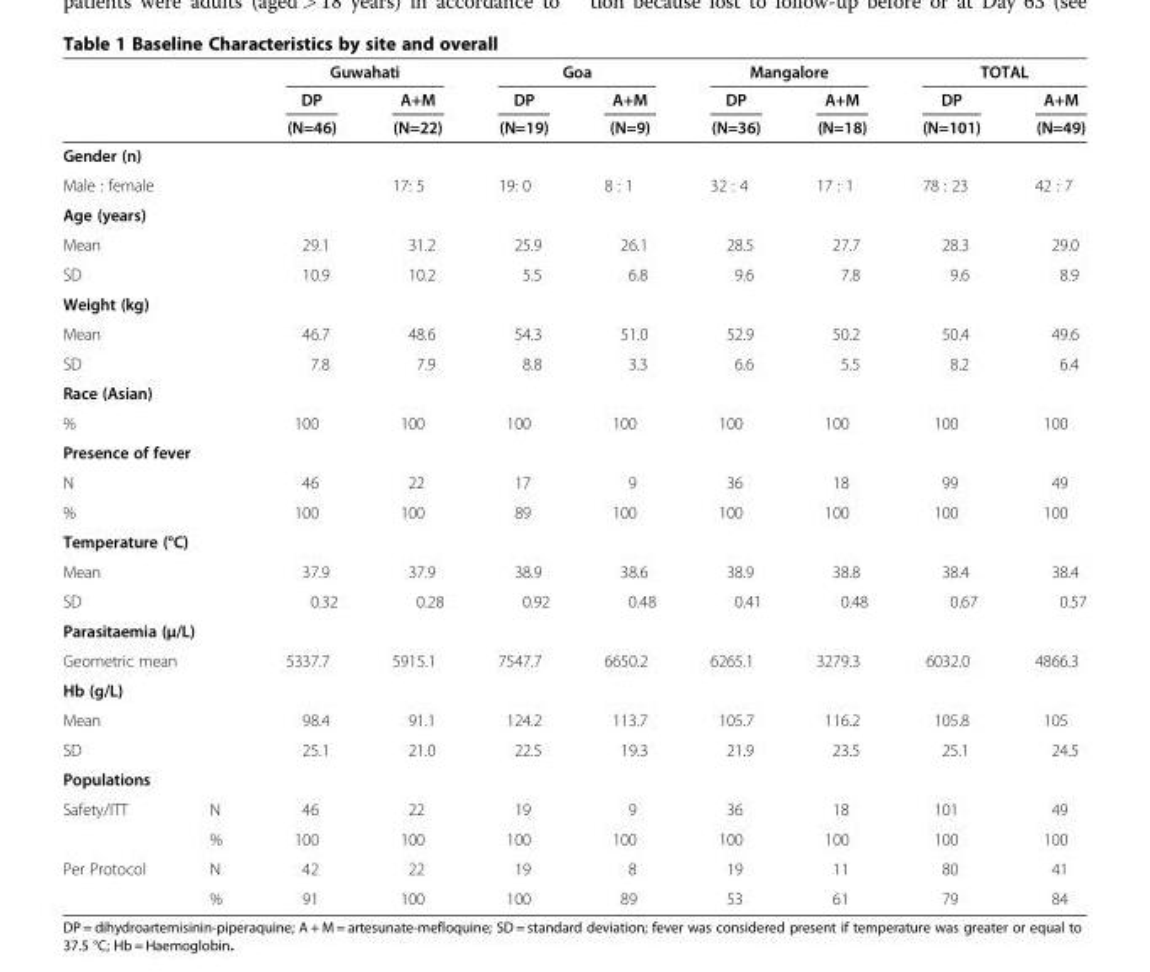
<table><thead><tr><td rowspan="3"></td><td rowspan="3"></td><td colspan="2">Guwahati</td><td colspan="2">Goa</td><td colspan="2">Mangalore</td><td colspan="2">TOTAL</td></tr><tr><td rowspan="2">DP (N=46)</td><td rowspan="2">A+M (N=22)</td><td rowspan="2">DP (N=19)</td><td rowspan="2">A+M (N=9)</td><td rowspan="2">DP (N=36)</td><td rowspan="2">A+M (N=18)</td><td rowspan="2">DP (N=101)</td><td rowspan="2">A+M (N=49)</td></tr><tr></tr></thead><tbody><tr><td colspan="10">Gender (n)</td></tr><tr><td colspan="2">Male : female</td><td></td><td>17: 5</td><td>19: 0</td><td>8 : 1</td><td>32 : 4</td><td>17 : 1</td><td>78 : 23</td><td>42 : 7</td></tr><tr><td colspan="10">Age (years)</td></tr><tr><td colspan="2">Mean</td><td>29.1</td><td>31.2</td><td>25.9</td><td>26.1</td><td>28.5</td><td>27.7</td><td>28.3</td><td>29.0</td></tr><tr><td colspan="2">SD</td><td>10.9</td><td>10.2</td><td>5.5</td><td>6.8</td><td>9.6</td><td>7.8</td><td>9.6</td><td>8.9</td></tr><tr><td colspan="10">Weight (kg)</td></tr><tr><td colspan="2">Mean</td><td>46.7</td><td>48.6</td><td>54.3</td><td>51.0</td><td>52.9</td><td>50.2</td><td>50.4</td><td>49.6</td></tr><tr><td colspan="2">SD</td><td>7.8</td><td>7.9</td><td>8.8</td><td>3.3</td><td>6.6</td><td>5.5</td><td>8.2</td><td>6.4</td></tr><tr><td colspan="10">Race (Asian)</td></tr><tr><td colspan="2">%</td><td>100</td><td>100</td><td>100</td><td>100</td><td>100</td><td>100</td><td>100</td><td>100</td></tr><tr><td colspan="10">Presence of fever</td></tr><tr><td colspan="2">N</td><td>46</td><td>22</td><td>17</td><td>9</td><td>36</td><td>18</td><td>99</td><td>49</td></tr><tr><td colspan="2">%</td><td>100</td><td>100</td><td>89</td><td>100</td><td>100</td><td>100</td><td>100</td><td>100</td></tr><tr><td colspan="10">Temperature (°C)</td></tr><tr><td colspan="2">Mean</td><td>37.9</td><td>37.9</td><td>38.9</td><td>38.6</td><td>38.9</td><td>38.8</td><td>38.4</td><td>38.4</td></tr><tr><td colspan="2">SD</td><td>0.32</td><td>0.28</td><td>0.92</td><td>0.48</td><td>0.41</td><td>0.48</td><td>0.67</td><td>0.57</td></tr><tr><td colspan="10">Parasitaemia (μ/L)</td></tr><tr><td colspan="2">Geometric mean</td><td>5337.7</td><td>5915.1</td><td>7547.7</td><td>6650.2</td><td>6265.1</td><td>3279.3</td><td>6032.0</td><td>4866.3</td></tr><tr><td colspan="10">Hb (g/L)</td></tr><tr><td colspan="2">Mean</td><td>98.4</td><td>91.1</td><td>124.2</td><td>113.7</td><td>105.7</td><td>116.2</td><td>105.8</td><td>105</td></tr><tr><td colspan="2">SD</td><td>25.1</td><td>21.0</td><td>22.5</td><td>19.3</td><td>21.9</td><td>23.5</td><td>25.1</td><td>24.5</td></tr><tr><td colspan="10">Populations</td></tr><tr><td rowspan="2">Safety/ITT</td><td>N</td><td>46</td><td>22</td><td>19</td><td>9</td><td>36</td><td>18</td><td>101</td><td>49</td></tr><tr><td>%</td><td>100</td><td>100</td><td>100</td><td>100</td><td>100</td><td>100</td><td>100</td><td>100</td></tr><tr><td rowspan="2">Per Protocol</td><td>N</td><td>42</td><td>22</td><td>19</td><td>8</td><td>19</td><td>11</td><td>80</td><td>41</td></tr><tr><td>%</td><td>91</td><td>100</td><td>100</td><td>89</td><td>53</td><td>61</td><td>79</td><td>84</td></tr></tbody></table>